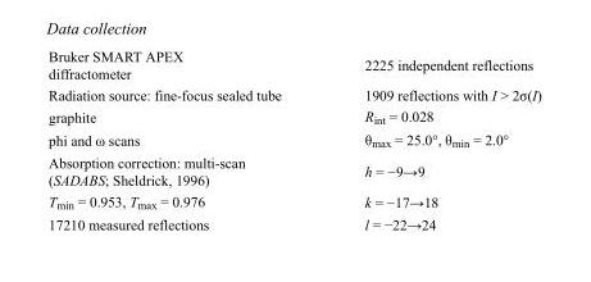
<table><tbody><tr><td>Bruker SMART APEX diffractometer</td><td>2225 independent reflections</td></tr><tr><td>Radiation source: fine-focus sealed tube</td><td>1909 reflections with I &gt; 2σ(I)</td></tr><tr><td>graphite</td><td>R<sub>int</sub> = 0.028</td></tr><tr><td>phi and ω scans</td><td>θ<sub>max</sub> = 25.0°, θ<sub>min</sub> = 2.0°</td></tr><tr><td>Absorption correction: multi-scan (SADABS; Sheldrick, 1996)</td><td>h = −9→9</td></tr><tr><td>T<sub>min</sub> = 0.953, T<sub>max</sub> = 0.976</td><td>k = −17→18</td></tr><tr><td>17210 measured reflections</td><td>l = −22→24</td></tr></tbody></table>